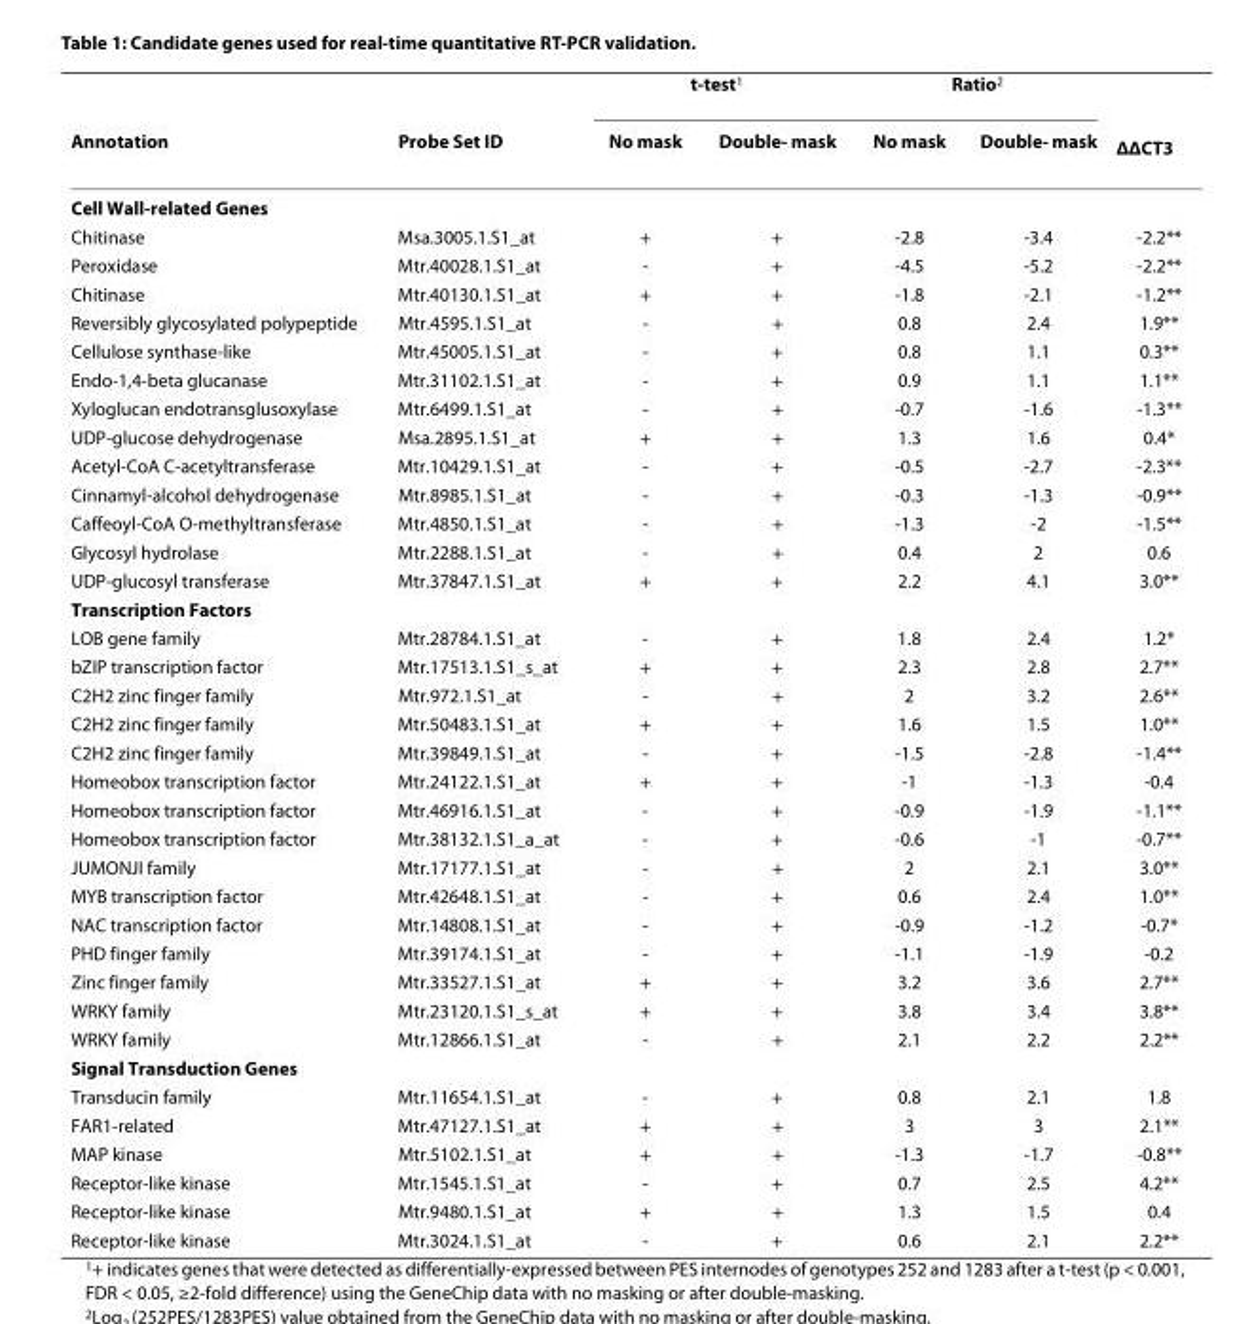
<table><thead><tr><td rowspan="2">Annotation</td><td rowspan="2">Probe Set ID</td><td colspan="2">t-test<sup>1</sup></td><td colspan="2">Ratio<sup>2</sup></td><td rowspan="2">ΔΔC<sub>T</sub><sup>3</sup></td></tr><tr><td>No mask</td><td>Double- mask</td><td>No mask</td><td>Double- mask</td></tr></thead><tbody><tr><td colspan="7">Cell Wall-related Genes</td></tr><tr><td>Chitinase</td><td>Msa.3005.1.S1_at</td><td>+</td><td>+</td><td>-2.8</td><td>-3.4</td><td>-2.2**</td></tr><tr><td>Peroxidase</td><td>Mtr.40028.1.S1_at</td><td>-</td><td>+</td><td>-4.5</td><td>-5.2</td><td>-2.2**</td></tr><tr><td>Chitinase</td><td>Mtr.40130.1.S1_at</td><td>+</td><td>+</td><td>-1.8</td><td>-2.1</td><td>-1.2**</td></tr><tr><td>Reversibly glycosylated polypeptide</td><td>Mtr.4595.1.S1_at</td><td>-</td><td>+</td><td>0.8</td><td>2.4</td><td>1.9**</td></tr><tr><td>Cellulose synthase-like</td><td>Mtr.45005.1.S1_at</td><td>-</td><td>+</td><td>0.8</td><td>1.1</td><td>0.3**</td></tr><tr><td>Endo-1,4-beta glucanase</td><td>Mtr.31102.1.S1_at</td><td>-</td><td>+</td><td>0.9</td><td>1.1</td><td>1.1**</td></tr><tr><td>Xyloglucan endotransglusoxylase</td><td>Mtr.6499.1.S1_at</td><td>-</td><td>+</td><td>-0.7</td><td>-1.6</td><td>-1.3**</td></tr><tr><td>UDP-glucose dehydrogenase</td><td>Msa.2895.1.S1_at</td><td>+</td><td>+</td><td>1.3</td><td>1.6</td><td>0.4*</td></tr><tr><td>Acetyl-CoA C-acetyltransferase</td><td>Mtr.10429.1.S1_at</td><td>-</td><td>+</td><td>-0.5</td><td>-2.7</td><td>-2.3**</td></tr><tr><td>Cinnamyl-alcohol dehydrogenase</td><td>Mtr.8985.1.S1_at</td><td>-</td><td>+</td><td>-0.3</td><td>-1.3</td><td>-0.9**</td></tr><tr><td>Caffeoyl-CoA O-methyltransferase</td><td>Mtr.4850.1.S1_at</td><td>-</td><td>+</td><td>-1.3</td><td>-2</td><td>-1.5**</td></tr><tr><td>Glycosyl hydrolase</td><td>Mtr.2288.1.S1_at</td><td>-</td><td>+</td><td>0.4</td><td>2</td><td>0.6</td></tr><tr><td>UDP-glucosyl transferase</td><td>Mtr.37847.1.S1_at</td><td>+</td><td>+</td><td>2.2</td><td>4.1</td><td>3.0**</td></tr><tr><td colspan="7">Transcription Factors</td></tr><tr><td>LOB gene family</td><td>Mtr.28784.1.S1_at</td><td>-</td><td>+</td><td>1.8</td><td>2.4</td><td>1.2*</td></tr><tr><td>bZIP transcription factor</td><td>Mtr.17513.1.S1_s_at</td><td>+</td><td>+</td><td>2.3</td><td>2.8</td><td>2.7**</td></tr><tr><td>C2H2 zinc finger family</td><td>Mtr.972.1.S1_at</td><td>-</td><td>+</td><td>2</td><td>3.2</td><td>2.6**</td></tr><tr><td>C2H2 zinc finger family</td><td>Mtr.50483.1.S1_at</td><td>+</td><td>+</td><td>1.6</td><td>1.5</td><td>1.0**</td></tr><tr><td>C2H2 zinc finger family</td><td>Mtr.39849.1.S1_at</td><td>-</td><td>+</td><td>-1.5</td><td>-2.8</td><td>-1.4**</td></tr><tr><td>Homeobox transcription factor</td><td>Mtr.24122.1.S1_at</td><td>+</td><td>+</td><td>-1</td><td>-1.3</td><td>-0.4</td></tr><tr><td>Homeobox transcription factor</td><td>Mtr.46916.1.S1_at</td><td>-</td><td>+</td><td>-0.9</td><td>-1.9</td><td>-1.1**</td></tr><tr><td>Homeobox transcription factor</td><td>Mtr.38132.1.S1_a_at</td><td>-</td><td>+</td><td>-0.6</td><td>-1</td><td>-0.7**</td></tr><tr><td>JUMONJI family</td><td>Mtr.17177.1.S1_at</td><td>-</td><td>+</td><td>2</td><td>2.1</td><td>3.0**</td></tr><tr><td>MYB transcription factor</td><td>Mtr.42648.1.S1_at</td><td>-</td><td>+</td><td>0.6</td><td>2.4</td><td>1.0**</td></tr><tr><td>NAC transcription factor</td><td>Mtr.14808.1.S1_at</td><td>-</td><td>+</td><td>-0.9</td><td>-1.2</td><td>-0.7*</td></tr><tr><td>PHD finger family</td><td>Mtr.39174.1.S1_at</td><td>-</td><td>+</td><td>-1.1</td><td>-1.9</td><td>-0.2</td></tr><tr><td>Zinc finger family</td><td>Mtr.33527.1.S1_at</td><td>+</td><td>+</td><td>3.2</td><td>3.6</td><td>2.7**</td></tr><tr><td>WRKY family</td><td>Mtr.23120.1.S1_s_at</td><td>+</td><td>+</td><td>3.8</td><td>3.4</td><td>3.8**</td></tr><tr><td>WRKY family</td><td>Mtr.12866.1.S1_at</td><td>-</td><td>+</td><td>2.1</td><td>2.2</td><td>2.2**</td></tr><tr><td colspan="7">Signal Transduction Genes</td></tr><tr><td>Transducin family</td><td>Mtr.11654.1.S1_at</td><td>-</td><td>+</td><td>0.8</td><td>2.1</td><td>1.8</td></tr><tr><td>FAR1-related</td><td>Mtr.47127.1.S1_at</td><td>+</td><td>+</td><td>3</td><td>3</td><td>2.1**</td></tr><tr><td>MAP kinase</td><td>Mtr.5102.1.S1_at</td><td>+</td><td>+</td><td>-1.3</td><td>-1.7</td><td>-0.8**</td></tr><tr><td>Receptor-like kinase</td><td>Mtr.1545.1.S1_at</td><td>-</td><td>+</td><td>0.7</td><td>2.5</td><td>4.2**</td></tr><tr><td>Receptor-like kinase</td><td>Mtr.9480.1.S1_at</td><td>+</td><td>+</td><td>1.3</td><td>1.5</td><td>0.4</td></tr><tr><td>Receptor-like kinase</td><td>Mtr.3024.1.S1_at</td><td>-</td><td>+</td><td>0.6</td><td>2.1</td><td>2.2**</td></tr></tbody></table>